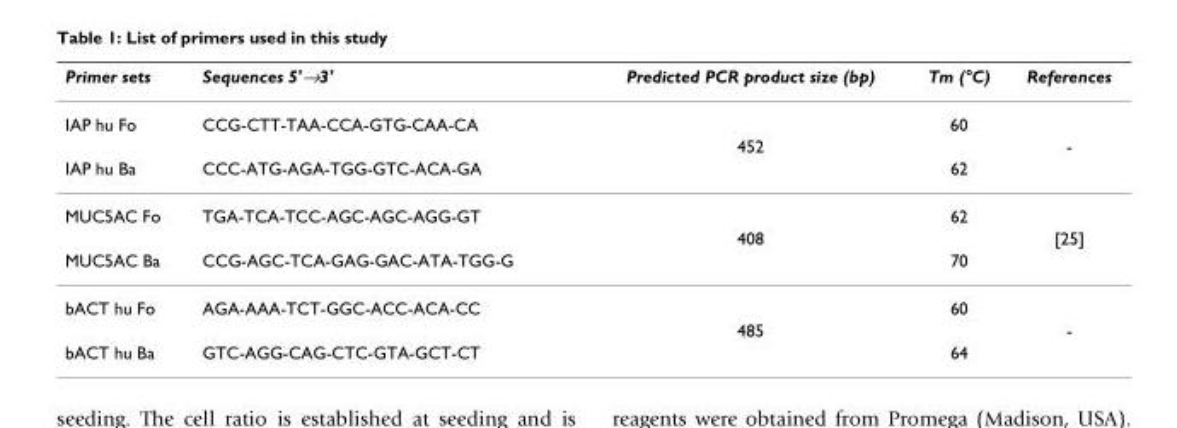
<table><thead><tr><td>Primer sets</td><td>Sequences 5&#x27;→3&#x27;</td><td>Predicted PCR product size (bp)</td><td>Tm (°C)</td><td>References</td></tr></thead><tbody><tr><td rowspan="2">IAP hu Fo</td><td>CCG-CTT-TAA-CCA-GTG-CAA-CA</td><td></td><td>60</td><td></td></tr><tr><td></td><td>452</td><td></td><td>-</td></tr><tr><td>IAP hu Ba</td><td>CCC-ATG-AGA-TGG-GTC-ACA-GA</td><td></td><td>62</td><td></td></tr><tr><td rowspan="2">MUC5AC Fo</td><td>TGA-TCA-TCC-AGC-AGC-AGG-GT</td><td></td><td>62</td><td></td></tr><tr><td></td><td>408</td><td></td><td>[25]</td></tr><tr><td>MUC5AC Ba</td><td>CCG-AGC-TCA-GAG-GAC-ATA-TGG-G</td><td></td><td>70</td><td></td></tr><tr><td rowspan="2">bACT hu Fo</td><td>AGA-AAA-TCT-GGC-ACC-ACA-CC</td><td></td><td>60</td><td></td></tr><tr><td></td><td>485</td><td></td><td>-</td></tr><tr><td>bACT hu Ba</td><td>GTC-AGG-CAG-CTC-GTA-GCT-CT</td><td></td><td>64</td><td></td></tr></tbody></table>